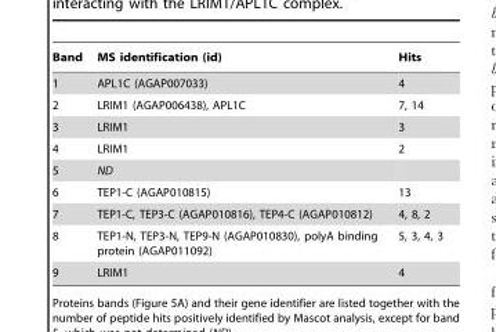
<table><thead><tr><td>Band</td><td>MS identification (id)</td><td>Hits</td></tr></thead><tbody><tr><td>1</td><td>APL1C (AGAP007033)</td><td>4</td></tr><tr><td>2</td><td>LRIM1 (AGAP006438), APL1C</td><td>7, 14</td></tr><tr><td>3</td><td>LRIM1</td><td>3</td></tr><tr><td>4</td><td>LRIM1</td><td>2</td></tr><tr><td>5</td><td>ND</td><td></td></tr><tr><td>6</td><td>TEP1-C (AGAP010815)</td><td>13</td></tr><tr><td>7</td><td>TEP1-C, TEP3-C (AGAP010816), TEP4-C (AGAP010812)</td><td>4, 8, 2</td></tr><tr><td>8</td><td>TEP1-N, TEP3-N, TEP9-N (AGAP010830), polyA binding protein (AGAP011092)</td><td>5, 3, 4, 3</td></tr><tr><td>9</td><td>LRIM1</td><td>4</td></tr></tbody></table>